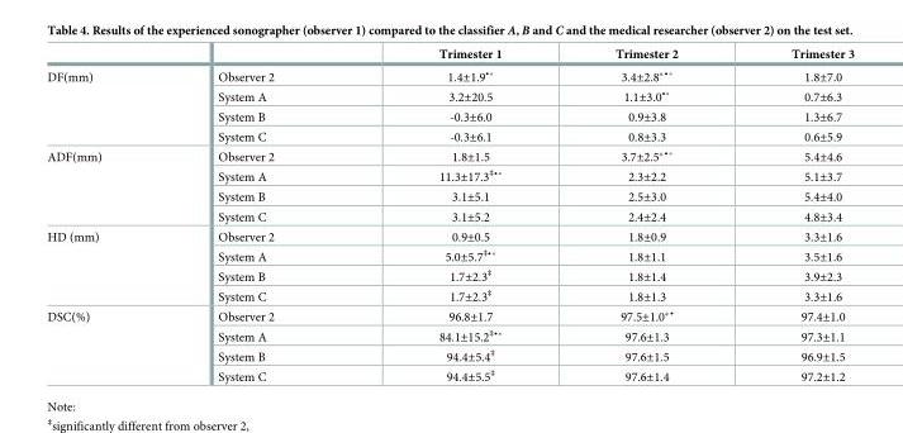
<table><thead><tr><td></td><td></td><td>Trimester 1</td><td>Trimester 2</td><td>Trimester 3</td></tr></thead><tbody><tr><td rowspan="4">DF(mm)</td><td>Observer 2</td><td>1.4±1.9•˚</td><td>3.4±2.8*•˚</td><td>1.8±7.0</td></tr><tr><td>System A</td><td>3.2±20.5</td><td>1.1±3.0•˚</td><td>0.7±6.3</td></tr><tr><td>System B</td><td>-0.3±6.0</td><td>0.9±3.8</td><td>1.3±6.7</td></tr><tr><td>System C</td><td>-0.3±6.1</td><td>0.8±3.3</td><td>0.6±5.9</td></tr><tr><td rowspan="4">ADF(mm)</td><td>Observer 2</td><td>1.8±1.5</td><td>3.7±2.5*•˚</td><td>5.4±4.6</td></tr><tr><td>System A</td><td>11.3±17.3‡•˚</td><td>2.3±2.2</td><td>5.1±3.7</td></tr><tr><td>System B</td><td>3.1±5.1</td><td>2.5±3.0</td><td>5.4±4.0</td></tr><tr><td>System C</td><td>3.1±5.2</td><td>2.4±2.4</td><td>4.8±3.4</td></tr><tr><td rowspan="4">HD (mm)</td><td>Observer 2</td><td>0.9±0.5</td><td>1.8±0.9</td><td>3.3±1.6</td></tr><tr><td>System A</td><td>5.0±5.7‡•˚</td><td>1.8±1.1</td><td>3.5±1.6</td></tr><tr><td>System B</td><td>1.7±2.3<sup>‡</sup></td><td>1.8±1.4</td><td>3.9±2.3</td></tr><tr><td>System C</td><td>1.7±2.3<sup>‡</sup></td><td>1.8±1.3</td><td>3.3±1.6</td></tr><tr><td rowspan="4">DSC(%)</td><td>Observer 2</td><td>96.8±1.7</td><td>97.5±1.0*<sup>•</sup></td><td>97.4±1.0</td></tr><tr><td>System A</td><td>84.1±15.2‡•˚</td><td>97.6±1.3</td><td>97.3±1.1</td></tr><tr><td>System B</td><td>94.4±5.4<sup>‡</sup></td><td>97.6±1.5</td><td>96.9±1.5</td></tr><tr><td>System C</td><td>94.4±5.5<sup>‡</sup></td><td>97.6±1.4</td><td>97.2±1.2</td></tr></tbody></table>